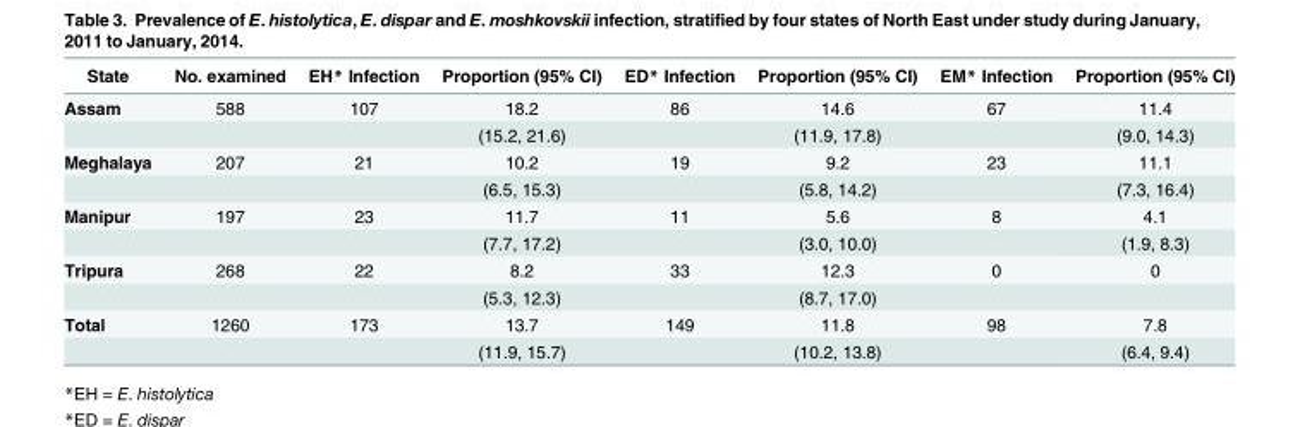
<table><thead><tr><td>State</td><td>No. examined</td><td>EH* Infection</td><td>Proportion (95% CI)</td><td>ED* Infection</td><td>Proportion (95% CI)</td><td>EM* Infection</td><td>Proportion (95% CI)</td></tr></thead><tbody><tr><td rowspan="2">Assam</td><td>588</td><td>107</td><td>18.2</td><td>86</td><td>14.6</td><td>67</td><td>11.4</td></tr><tr><td></td><td></td><td>(15.2, 21.6)</td><td></td><td>(11.9, 17.8)</td><td></td><td>(9.0, 14.3)</td></tr><tr><td rowspan="2">Meghalaya</td><td>207</td><td>21</td><td>10.2</td><td>19</td><td>9.2</td><td>23</td><td>11.1</td></tr><tr><td></td><td></td><td>(6.5, 15.3)</td><td></td><td>(5.8, 14.2)</td><td></td><td>(7.3, 16.4)</td></tr><tr><td rowspan="2">Manipur</td><td>197</td><td>23</td><td>11.7</td><td>11</td><td>5.6</td><td>8</td><td>4.1</td></tr><tr><td></td><td></td><td>(7.7, 17.2)</td><td></td><td>(3.0, 10.0)</td><td></td><td>(1.9, 8.3)</td></tr><tr><td rowspan="2">Tripura</td><td>268</td><td>22</td><td>8.2</td><td>33</td><td>12.3</td><td>0</td><td>0</td></tr><tr><td></td><td></td><td>(5.3, 12.3)</td><td></td><td>(8.7, 17.0)</td><td></td><td></td></tr><tr><td rowspan="2">Total</td><td>1260</td><td>173</td><td>13.7</td><td>149</td><td>11.8</td><td>98</td><td>7.8</td></tr><tr><td></td><td></td><td>(11.9, 15.7)</td><td></td><td>(10.2, 13.8)</td><td></td><td>(6.4, 9.4)</td></tr></tbody></table>